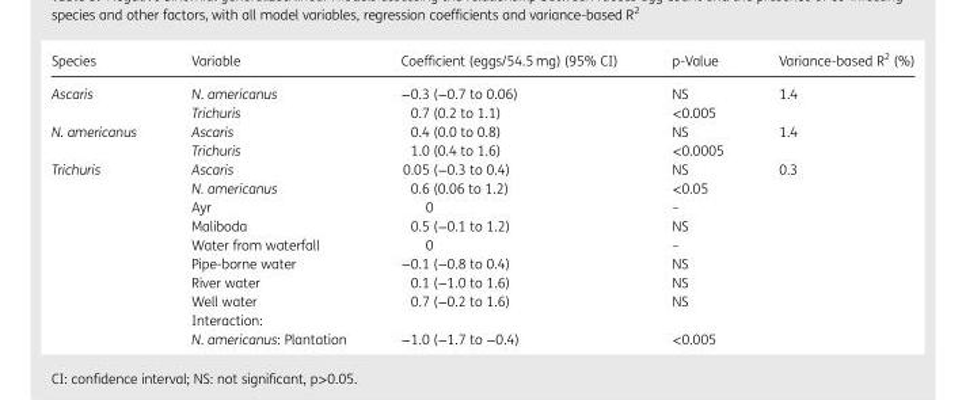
<table><thead><tr><td>Species</td><td>Variable</td><td>Coefficient (eggs/54.5 mg) (95% CI)</td><td>p-Value</td><td>Variance-based R<sup>2</sup> (%)</td></tr></thead><tbody><tr><td rowspan="2">Ascaris</td><td>N. americanus</td><td>−0.3 (−0.7 to 0.06)</td><td>NS</td><td>1.4</td></tr><tr><td>Trichuris</td><td>0.7 (0.2 to 1.1)</td><td>&lt;0.005</td><td></td></tr><tr><td rowspan="2">N. americanus</td><td>Ascaris</td><td>0.4 (0.0 to 0.8)</td><td>NS</td><td>1.4</td></tr><tr><td>Trichuris</td><td>1.0 (0.4 to 1.6)</td><td>&lt;0.0005</td><td></td></tr><tr><td rowspan="10">Trichuris</td><td>Ascaris</td><td>0.05 (−0.3 to 0.4)</td><td>NS</td><td>0.3</td></tr><tr><td>N. americanus</td><td>0.6 (0.06 to 1.2)</td><td>&lt;0.05</td><td></td></tr><tr><td>Ayr</td><td>0</td><td>–</td><td></td></tr><tr><td>Maliboda</td><td>0.5 (−0.1 to 1.2)</td><td>NS</td><td></td></tr><tr><td>Water from waterfall</td><td>0</td><td>–</td><td></td></tr><tr><td>Pipe-borne water</td><td>−0.1 (−0.8 to 0.4)</td><td>NS</td><td></td></tr><tr><td>River water</td><td>0.1 (−1.0 to 1.6)</td><td>NS</td><td></td></tr><tr><td>Well water</td><td>0.7 (−0.2 to 1.6)</td><td>NS</td><td></td></tr><tr><td>Interaction:</td><td></td><td></td><td></td></tr><tr><td>N. americanus: Plantation</td><td>−1.0 (−1.7 to −0.4)</td><td>&lt;0.005</td><td></td></tr></tbody></table>